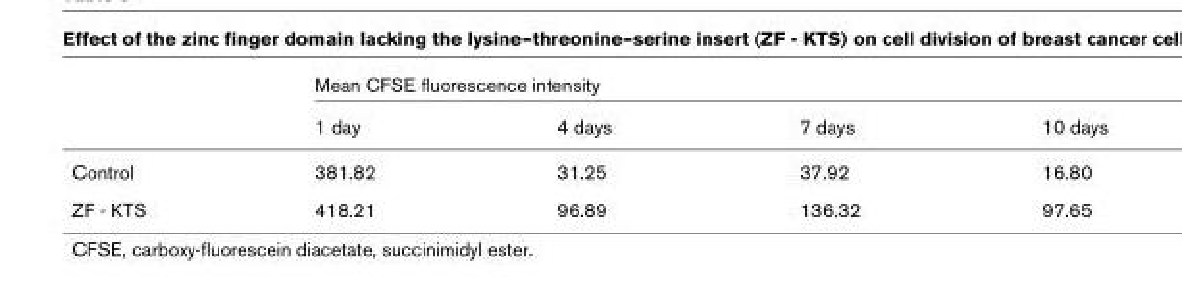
<table><thead><tr><td rowspan="2"></td><td colspan="4">Mean CFSE fluorescence intensity</td></tr><tr><td>1 day</td><td>4 days</td><td>7 days</td><td>10 days</td></tr></thead><tbody><tr><td>Control</td><td>381.82</td><td>31.25</td><td>37.92</td><td>16.80</td></tr><tr><td>ZF - KTS</td><td>418.21</td><td>96.89</td><td>136.32</td><td>97.65</td></tr></tbody></table>